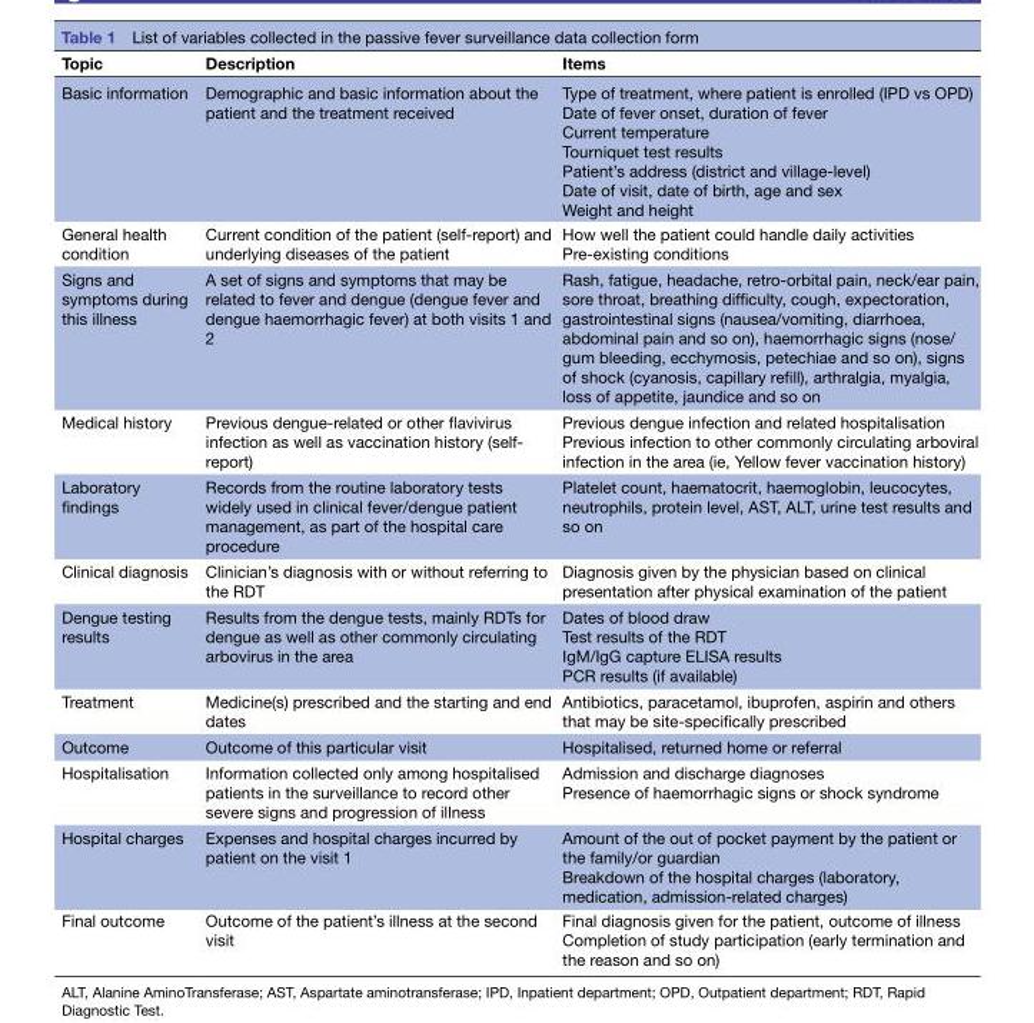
<table><thead><tr><td>Topic</td><td>Description</td><td>Items</td></tr></thead><tbody><tr><td>Basic information</td><td>Demographic and basic information about the patient and the treatment received</td><td>Type of treatment, where patient is enrolled (IPD vs OPD) Date of fever onset, duration of fever Current temperature Tourniquet test results Patient’s address (district and village-level) Date of visit, date of birth, age and sex Weight and height</td></tr><tr><td>General health condition</td><td>Current condition of the patient (self-report) and underlying diseases of the patient</td><td>How well the patient could handle daily activities Pre-existing conditions</td></tr><tr><td>Signs and symptoms during this illness</td><td>A set of signs and symptoms that may be related to fever and dengue (dengue fever and dengue haemorrhagic fever) at both visits 1 and 2</td><td>Rash, fatigue, headache, retro-orbital pain, neck/ear pain, sore throat, breathing difficulty, cough, expectoration, gastrointestinal signs (nausea/vomiting, diarrhoea, abdominal pain and so on), haemorrhagic signs (nose/ gum bleeding, ecchymosis, petechiae and so on), signs of shock (cyanosis, capillary refill), arthralgia, myalgia, loss of appetite, jaundice and so on</td></tr><tr><td>Medical history</td><td>Previous dengue-related or other flavivirus infection as well as vaccination history (self- report)</td><td>Previous dengue infection and related hospitalisation Previous infection to other commonly circulating arboviral infection in the area (ie, Yellow fever vaccination history)</td></tr><tr><td>Laboratory findings</td><td>Records from the routine laboratory tests widely used in clinical fever/dengue patient management, as part of the hospital care procedure</td><td>Platelet count, haematocrit, haemoglobin, leucocytes, neutrophils, protein level, AST, ALT, urine test results and so on</td></tr><tr><td>Clinical diagnosis</td><td>Clinician’s diagnosis with or without referring to the RDT</td><td>Diagnosis given by the physician based on clinical presentation after physical examination of the patient</td></tr><tr><td>Dengue testing results</td><td>Results from the dengue tests, mainly RDTs for dengue as well as other commonly circulating arbovirus in the area</td><td>Dates of blood draw Test results of the RDT IgM/IgG capture ELISA results PCR results (if available)</td></tr><tr><td>Treatment</td><td>Medicine(s) prescribed and the starting and end dates</td><td>Antibiotics, paracetamol, ibuprofen, aspirin and others that may be site-specifically prescribed</td></tr><tr><td>Outcome</td><td>Outcome of this particular visit</td><td>Hospitalised, returned home or referral</td></tr><tr><td>Hospitalisation</td><td>Information collected only among hospitalised patients in the surveillance to record other severe signs and progression of illness</td><td>Admission and discharge diagnoses Presence of haemorrhagic signs or shock syndrome</td></tr><tr><td>Hospital charges</td><td>Expenses and hospital charges incurred by patient on the visit 1</td><td>Amount of the out of pocket payment by the patient or the family/or guardian Breakdown of the hospital charges (laboratory, medication, admission-related charges)</td></tr><tr><td>Final outcome</td><td>Outcome of the patient’s illness at the second visit</td><td>Final diagnosis given for the patient, outcome of illness Completion of study participation (early termination and the reason and so on)</td></tr></tbody></table>